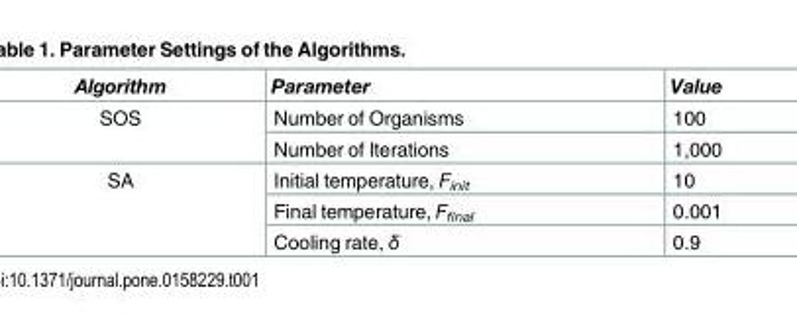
<table><thead><tr><td>Algorithm</td><td>Parameter</td><td>Value</td></tr></thead><tbody><tr><td rowspan="2">SOS</td><td>Number of Organisms</td><td>100</td></tr><tr><td>Number of Iterations</td><td>1,000</td></tr><tr><td rowspan="3">SA</td><td>Initial temperature, F<sub>init</sub></td><td>10</td></tr><tr><td>Final temperature, F<sub>final</sub></td><td>0.001</td></tr><tr><td>Cooling rate, δ</td><td>0.9</td></tr></tbody></table>